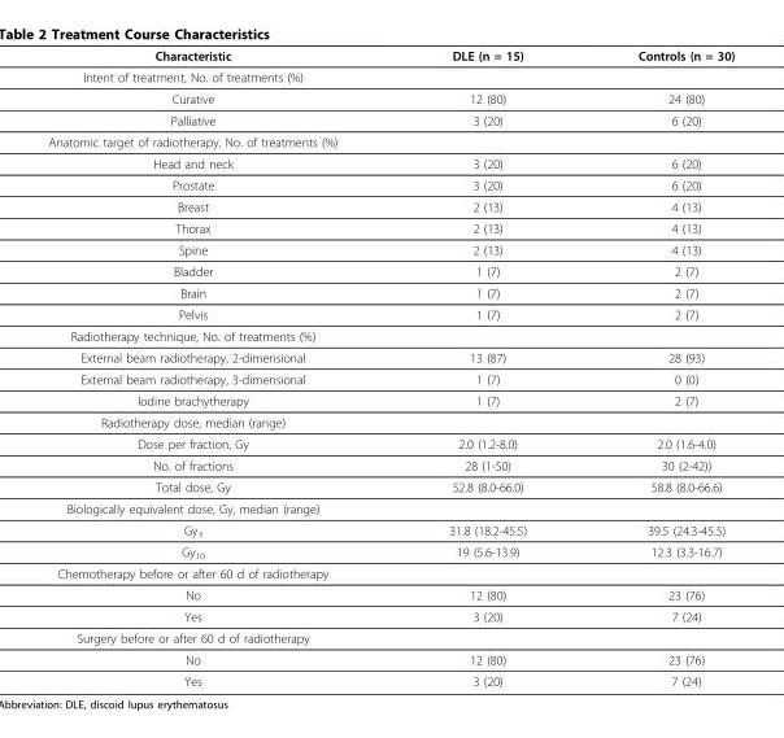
<table><thead><tr><td>Characteristic</td><td>DLE (n = 15)</td><td>Controls (n = 30)</td></tr></thead><tbody><tr><td colspan="3">Intent of treatment, No. of treatments (%)</td></tr><tr><td>Curative</td><td>12 (80)</td><td>24 (80)</td></tr><tr><td>Palliative</td><td>3 (20)</td><td>6 (20)</td></tr><tr><td colspan="3">Anatomic target of radiotherapy, No. of treatments (%)</td></tr><tr><td>Head and neck</td><td>3 (20)</td><td>6 (20)</td></tr><tr><td>Prostate</td><td>3 (20)</td><td>6 (20)</td></tr><tr><td>Breast</td><td>2 (13)</td><td>4 (13)</td></tr><tr><td>Thorax</td><td>2 (13)</td><td>4 (13)</td></tr><tr><td>Spine</td><td>2 (13)</td><td>4 (13)</td></tr><tr><td>Bladder</td><td>1 (7)</td><td>2 (7)</td></tr><tr><td>Brain</td><td>1 (7)</td><td>2 (7)</td></tr><tr><td>Pelvis</td><td>1 (7)</td><td>2 (7)</td></tr><tr><td colspan="3">Radiotherapy technique, No. of treatments (%)</td></tr><tr><td>External beam radiotherapy, 2-dimensional</td><td>13 (87)</td><td>28 (93)</td></tr><tr><td>External beam radiotherapy, 3-dimensional</td><td>1 (7)</td><td>0 (0)</td></tr><tr><td>Iodine brachytherapy</td><td>1 (7)</td><td>2 (7)</td></tr><tr><td colspan="3">Radiotherapy dose, median (range)</td></tr><tr><td>Dose per fraction, Gy</td><td>2.0 (1.2-8.0)</td><td>2.0 (1.6-4.0)</td></tr><tr><td>No. of fractions</td><td>28 (1-50)</td><td>30 (2-42))</td></tr><tr><td>Total dose, Gy</td><td>52.8 (8.0-66.0)</td><td>58.8 (8.0-66.6)</td></tr><tr><td colspan="3">Biologically equivalent dose, Gy, median (range)</td></tr><tr><td>Gy<sub>3</sub></td><td>31.8 (18.2-45.5)</td><td>39.5 (24.3-45.5)</td></tr><tr><td>Gy<sub>10</sub></td><td>19 (5.6-13.9)</td><td>12.3 (3.3-16.7)</td></tr><tr><td colspan="3">Chemotherapy before or after 60 d of radiotherapy</td></tr><tr><td>No</td><td>12 (80)</td><td>23 (76)</td></tr><tr><td>Yes</td><td>3 (20)</td><td>7 (24)</td></tr><tr><td colspan="3">Surgery before or after 60 d of radiotherapy</td></tr><tr><td>No</td><td>12 (80)</td><td>23 (76)</td></tr><tr><td>Yes</td><td>3 (20)</td><td>7 (24)</td></tr></tbody></table>